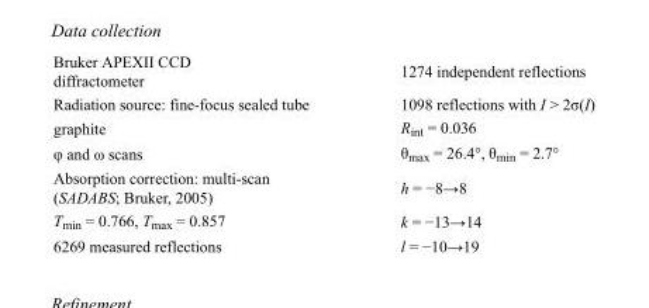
<table><tbody><tr><td>Bruker APEXII CCD diffractometer</td><td>1274 independent reflections</td></tr><tr><td>Radiation source: fine-focus sealed tube</td><td>1098 reflections with I &gt; 2σ(I)</td></tr><tr><td>graphite</td><td>R<sub>int</sub> = 0.036</td></tr><tr><td>φ and ω scans</td><td>θ<sub>max</sub> = 26.4°, θ<sub>min</sub> = 2.7°</td></tr><tr><td>Absorption correction: multi-scan (SADABS; Bruker, 2005)</td><td>h = −8→8</td></tr><tr><td>T<sub>min</sub> = 0.766, T<sub>max</sub> = 0.857</td><td>k = −13→14</td></tr><tr><td>6269 measured reflections</td><td>l = −10→19</td></tr></tbody></table>